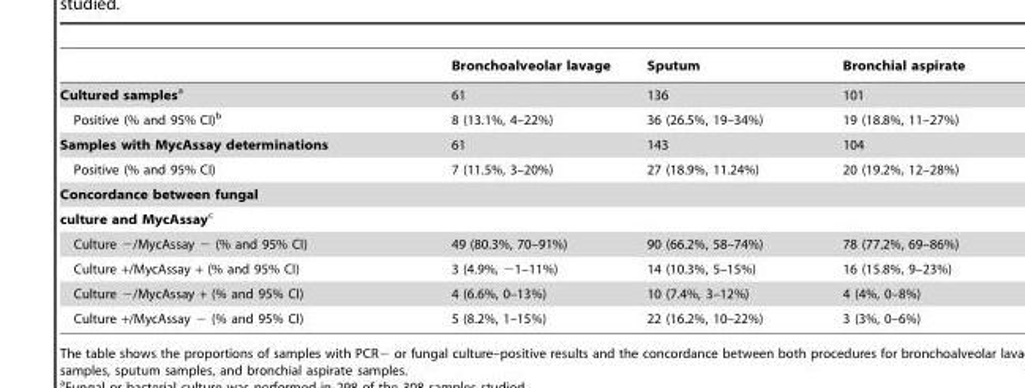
<table><thead><tr><td></td><td>Bronchoalveolar lavage</td><td>Sputum</td><td>Bronchial aspirate</td></tr></thead><tbody><tr><td>Cultured samplesa</td><td>61</td><td>136</td><td>101</td></tr><tr><td>Positive (% and 95% CI)<sup>b</sup></td><td>8 (13.1%, 4–22%)</td><td>36 (26.5%, 19–34%)</td><td>19 (18.8%, 11–27%)</td></tr><tr><td>Samples with MycAssay determinations</td><td>61</td><td>143</td><td>104</td></tr><tr><td>Positive (% and 95% CI)</td><td>7 (11.5%, 3–20%)</td><td>27 (18.9%, 11.24%)</td><td>20 (19.2%, 12–28%)</td></tr><tr><td colspan="4">Concordance between fungal</td></tr><tr><td colspan="4">culture and MycAssayc</td></tr><tr><td>Culture −/MycAssay − (% and 95% CI)</td><td>49 (80.3%, 70–91%)</td><td>90 (66.2%, 58–74%)</td><td>78 (77.2%, 69–86%)</td></tr><tr><td>Culture +/MycAssay + (% and 95% CI)</td><td>3 (4.9%, −1–11%)</td><td>14 (10.3%, 5–15%)</td><td>16 (15.8%, 9–23%)</td></tr><tr><td>Culture −/MycAssay + (% and 95% CI)</td><td>4 (6.6%, 0–13%)</td><td>10 (7.4%, 3–12%)</td><td>4 (4%, 0–8%)</td></tr><tr><td>Culture +/MycAssay − (% and 95% CI)</td><td>5 (8.2%, 1–15%)</td><td>22 (16.2%, 10–22%)</td><td>3 (3%, 0–6%)</td></tr></tbody></table>